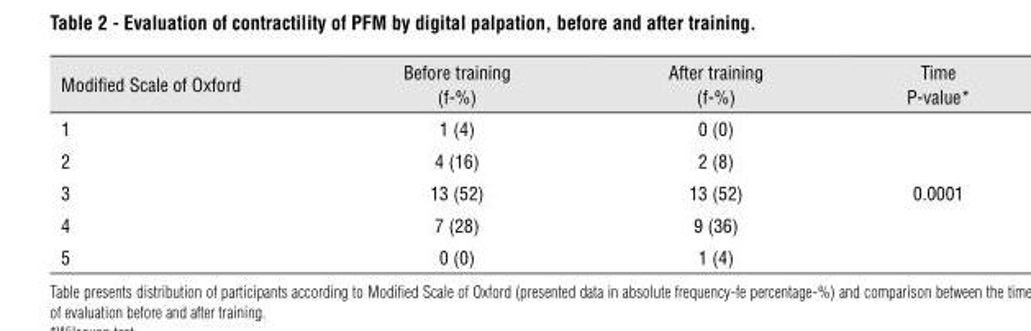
<table><thead><tr><td>Modified Scale of Oxford</td><td>Before training (f-%)</td><td>After training (f-%)</td><td>Time P-value*</td></tr></thead><tbody><tr><td>1</td><td>1 (4)</td><td>0 (0)</td><td></td></tr><tr><td>2</td><td>4 (16)</td><td>2 (8)</td><td></td></tr><tr><td>3</td><td>13 (52)</td><td>13 (52)</td><td>0.0001</td></tr><tr><td>4</td><td>7 (28)</td><td>9 (36)</td><td></td></tr><tr><td>5</td><td>0 (0)</td><td>1 (4)</td><td></td></tr></tbody></table>